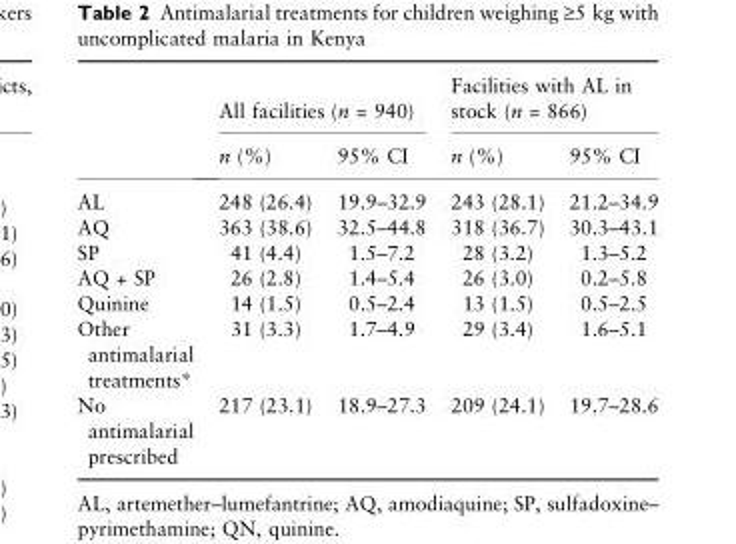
<table><thead><tr><td rowspan="2"></td><td colspan="2">All facilities (n = 940)</td><td colspan="2">Facilities with AL in stock (n = 866)</td></tr><tr><td>n (%)</td><td>95% CI</td><td>n (%)</td><td>95% CI</td></tr></thead><tbody><tr><td>AL</td><td>248 (26.4)</td><td>19.9–32.9</td><td>243 (28.1)</td><td>21.2–34.9</td></tr><tr><td>AQ</td><td>363 (38.6)</td><td>32.5–44.8</td><td>318 (36.7)</td><td>30.3–43.1</td></tr><tr><td>SP</td><td>41 (4.4)</td><td>1.5–7.2</td><td>28 (3.2)</td><td>1.3–5.2</td></tr><tr><td>AQ + SP</td><td>26 (2.8)</td><td>1.4–5.4</td><td>26 (3.0)</td><td>0.2–5.8</td></tr><tr><td>Quinine</td><td>14 (1.5)</td><td>0.5–2.4</td><td>13 (1.5)</td><td>0.5–2.5</td></tr><tr><td>Other antimalarial treatments*</td><td>31 (3.3)</td><td>1.7–4.9</td><td>29 (3.4)</td><td>1.6–5.1</td></tr><tr><td>No antimalarial prescribed</td><td>217 (23.1)</td><td>18.9–27.3</td><td>209 (24.1)</td><td>19.7–28.6</td></tr></tbody></table>